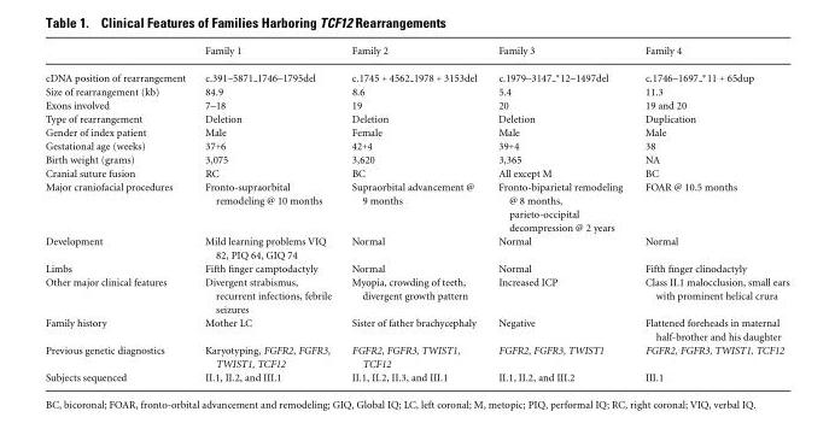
<table><thead><tr><td></td><td>Family 1</td><td>Family 2</td><td>Family 3</td><td>Family 4</td></tr></thead><tbody><tr><td>cDNA position of rearrangement</td><td>c.391–5871 1746–1795del</td><td>c.1745 + 4562 1978 + 3153del</td><td>c.1979–3147 ∗12–1497del</td><td>c.1746–1697 ∗11 + 65dup</td></tr><tr><td>Size of rearrangement (kb)</td><td>84.9</td><td>8.6</td><td>5.4</td><td>11.3</td></tr><tr><td>Exons involved</td><td>7–18</td><td>19</td><td>20</td><td>19 and 20</td></tr><tr><td>Type of rearrangement</td><td>Deletion</td><td>Deletion</td><td>Deletion</td><td>Duplication</td></tr><tr><td>Gender of index patient</td><td>Male</td><td>Female</td><td>Male</td><td>Male</td></tr><tr><td>Gestational age (weeks)</td><td>37+6</td><td>42+4</td><td>39+4</td><td>38</td></tr><tr><td>Birth weight (grams)</td><td>3,075</td><td>3,620</td><td>3,365</td><td>NA</td></tr><tr><td>Cranial suture fusion</td><td>RC</td><td>BC</td><td>All except M</td><td>BC</td></tr><tr><td>Major craniofacial procedures</td><td>Fronto-supraorbital remodeling @ 10 months</td><td>Supraorbital advancement @ 9 months</td><td>Fronto-biparietal remodeling @ 8 months, parieto-occipital decompression @ 2 years</td><td>FOAR @ 10.5 months</td></tr><tr><td>Development</td><td>Mild learning problems VIQ 82, PIQ 64, GIQ 74</td><td>Normal</td><td>Normal</td><td>Normal</td></tr><tr><td>Limbs</td><td>Fifth finger camptodactyly</td><td>Normal</td><td>Normal</td><td>Fifth finger clinodactyly</td></tr><tr><td>Other major clinical features</td><td>Divergent strabismus, recurrent infections, febrile seizures</td><td>Myopia, crowding of teeth, divergent growth pattern</td><td>Increased ICP</td><td>Class II.1 malocclusion, small ears with prominent helical crura</td></tr><tr><td>Family history</td><td>Mother LC</td><td>Sister of father brachycephaly</td><td>Negative</td><td>Flattened foreheads in maternal half-brother and his daughter</td></tr><tr><td>Previous genetic diagnostics</td><td>Karyotyping, FGFR2, FGFR3, TWIST1, TCF12</td><td>FGFR2, FGFR3, TWIST1, TCF12</td><td>FGFR2, FGFR3, TWIST1</td><td>FGFR2, FGFR3, TWIST1, TCF12</td></tr><tr><td>Subjects sequenced</td><td>II.1, II.2, and III.1</td><td>II.1, II.2, II.3, and III.1</td><td>II.1, II.2, and III.2</td><td>III.1</td></tr></tbody></table>